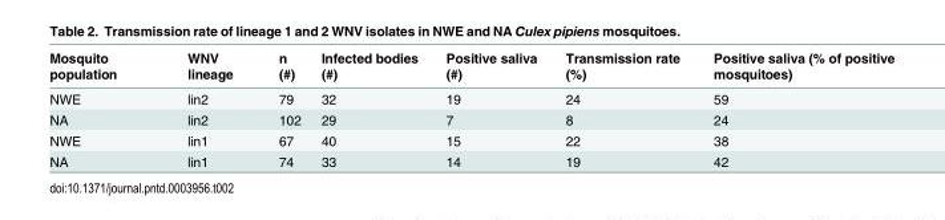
<table><thead><tr><td>Mosquito population</td><td>WNV lineage</td><td>n (#)</td><td>Infected bodies (#)</td><td>Positive saliva (#)</td><td>Transmission rate (%)</td><td>Positive saliva (% of positive mosquitoes)</td></tr></thead><tbody><tr><td>NWE</td><td>lin2</td><td>79</td><td>32</td><td>19</td><td>24</td><td>59</td></tr><tr><td>NA</td><td>lin2</td><td>102</td><td>29</td><td>7</td><td>8</td><td>24</td></tr><tr><td>NWE</td><td>lin1</td><td>67</td><td>40</td><td>15</td><td>22</td><td>38</td></tr><tr><td>NA</td><td>lin1</td><td>74</td><td>33</td><td>14</td><td>19</td><td>42</td></tr></tbody></table>